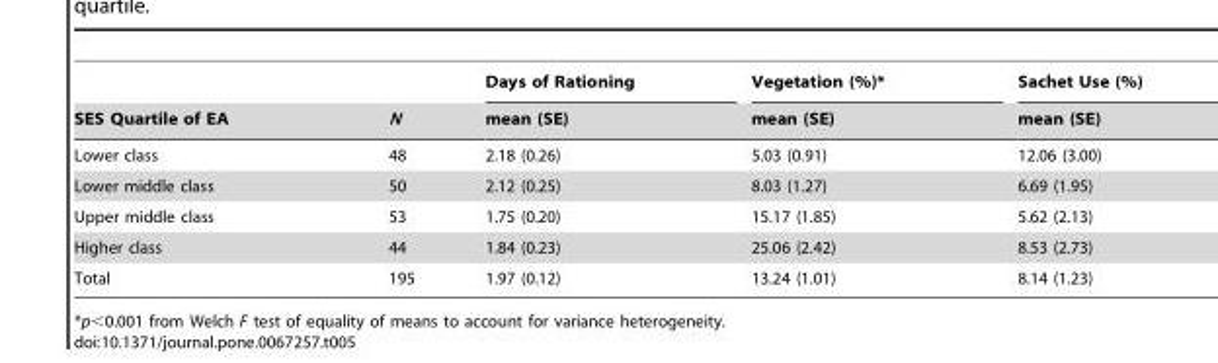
<table><thead><tr><td rowspan="2">SES Quartile of EA</td><td rowspan="2">N</td><td rowspan="2">Days of Rationing mean (SE)</td><td rowspan="2">Vegetation (%)* mean (SE)</td><td rowspan="2">Sachet Use (%) mean (SE)</td></tr><tr></tr></thead><tbody><tr><td>Lower class</td><td>48</td><td>2.18 (0.26)</td><td>5.03 (0.91)</td><td>12.06 (3.00)</td></tr><tr><td>Lower middle class</td><td>50</td><td>2.12 (0.25)</td><td>8.03 (1.27)</td><td>6.69 (1.95)</td></tr><tr><td>Upper middle class</td><td>53</td><td>1.75 (0.20)</td><td>15.17 (1.85)</td><td>5.62 (2.13)</td></tr><tr><td>Higher class</td><td>44</td><td>1.84 (0.23)</td><td>25.06 (2.42)</td><td>8.53 (2.73)</td></tr><tr><td>Total</td><td>195</td><td>1.97 (0.12)</td><td>13.24 (1.01)</td><td>8.14 (1.23)</td></tr></tbody></table>